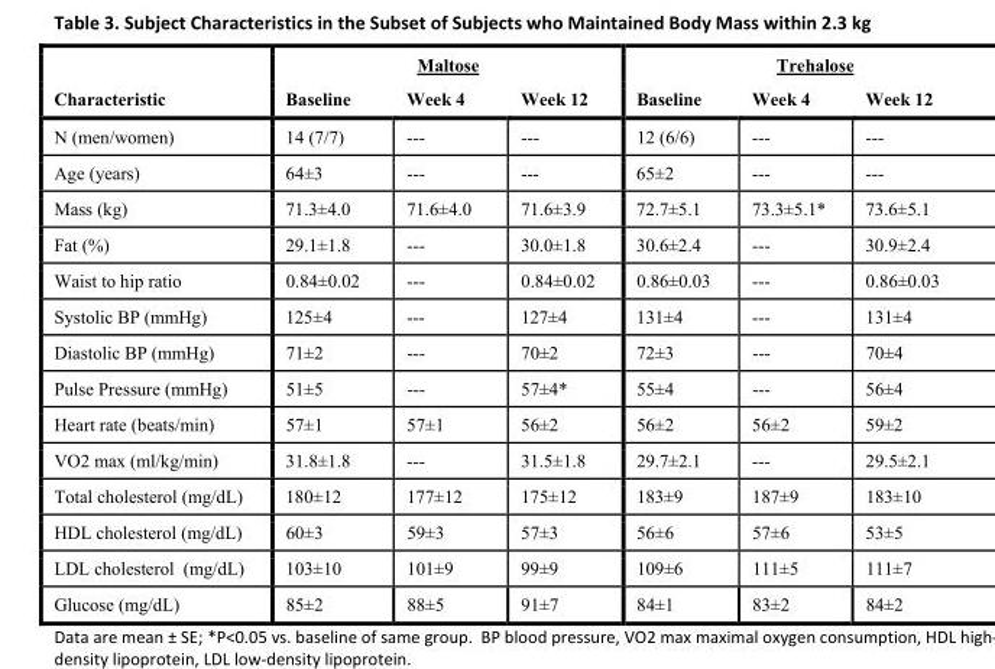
<table><thead><tr><td rowspan="2">Characteristic</td><td colspan="3">Maltose</td><td colspan="3">Trehalose</td></tr><tr><td>Baseline</td><td>Week 4</td><td>Week 12</td><td>Baseline</td><td>Week 4</td><td>Week 12</td></tr></thead><tbody><tr><td>N (men/women)</td><td>14 (7/7)</td><td>---</td><td>---</td><td>12 (6/6)</td><td>---</td><td>---</td></tr><tr><td>Age (years)</td><td>64±3</td><td>---</td><td>---</td><td>65±2</td><td>---</td><td>---</td></tr><tr><td>Mass (kg)</td><td>71.3±4.0</td><td>71.6±4.0</td><td>71.6±3.9</td><td>72.7±5.1</td><td>73.3±5.1*</td><td>73.6±5.1</td></tr><tr><td>Fat (%)</td><td>29.1±1.8</td><td>---</td><td>30.0±1.8</td><td>30.6±2.4</td><td>---</td><td>30.9±2.4</td></tr><tr><td>Waist to hip ratio</td><td>0.84±0.02</td><td>---</td><td>0.84±0.02</td><td>0.86±0.03</td><td>---</td><td>0.86±0.03</td></tr><tr><td>Systolic BP (mmHg)</td><td>125±4</td><td>---</td><td>127±4</td><td>131±4</td><td>---</td><td>131±4</td></tr><tr><td>Diastolic BP (mmHg)</td><td>71±2</td><td>---</td><td>70±2</td><td>72±3</td><td>---</td><td>70±4</td></tr><tr><td>Pulse Pressure (mmHg)</td><td>51±5</td><td>---</td><td>57±4*</td><td>55±4</td><td>---</td><td>56±4</td></tr><tr><td>Heart rate (beats/min)</td><td>57±1</td><td>57±1</td><td>56±2</td><td>56±2</td><td>56±2</td><td>59±2</td></tr><tr><td>VO2 max (ml/kg/min)</td><td>31.8±1.8</td><td>---</td><td>31.5±1.8</td><td>29.7±2.1</td><td>---</td><td>29.5±2.1</td></tr><tr><td>Total cholesterol (mg/dL)</td><td>180±12</td><td>177±12</td><td>175±12</td><td>183±9</td><td>187±9</td><td>183±10</td></tr><tr><td>HDL cholesterol (mg/dL)</td><td>60±3</td><td>59±3</td><td>57±3</td><td>56±6</td><td>57±6</td><td>53±5</td></tr><tr><td>LDL cholesterol (mg/dL)</td><td>103±10</td><td>101±9</td><td>99±9</td><td>109±6</td><td>111±5</td><td>111±7</td></tr><tr><td>Glucose (mg/dL)</td><td>85±2</td><td>88±5</td><td>91±7</td><td>84±1</td><td>83±2</td><td>84±2</td></tr></tbody></table>